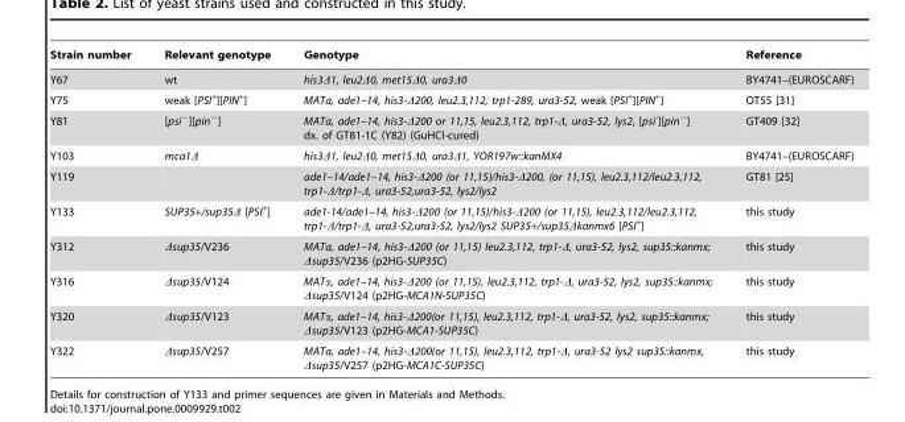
<table><thead><tr><td>Strain number</td><td>Relevant genotype</td><td>Genotype</td><td>Reference</td></tr></thead><tbody><tr><td>Y67</td><td>wt</td><td>his3Δ1, leu2Δ0, met15Δ0, ura3Δ0</td><td>BY4741–(EUROSCARF)</td></tr><tr><td>Y75</td><td>weak [PSI<sup>+</sup>][PIN<sup>+</sup>]</td><td>MATa, ade1–14, his3-Δ200, leu2.3,112, trp1-289, ura3-52, weak [PSI<sup>+</sup>][PIN<sup>+</sup>]</td><td>OT55 [31]</td></tr><tr><td>Y81</td><td>[psi<sup>−</sup>][pin<sup>−</sup>]</td><td>MATa, ade1–14, his3-Δ200 or 11,15, leu2.3,112, trp1-Δ, ura3-52, lys2, [psi<sup>-</sup>][pin<sup>−</sup>] dx. of GT81-1C (Y82) (GuHCl-cured)</td><td>GT409 [32]</td></tr><tr><td>Y103</td><td>mca1Δ</td><td>his3Δ1, leu2Δ0, met15Δ0, ura3Δ1, YOR197w::kanMX4</td><td>BY4741–(EUROSCARF)</td></tr><tr><td>Y119</td><td></td><td>ade1–14/ade1–14, his3-Δ200 (or 11,15)/his3-Δ200, (or 11,15), leu2.3,112/leu2.3,112, trp1-Δ/trp1-Δ, ura3-52,ura3-52, lys2/lys2</td><td>GT81 [25]</td></tr><tr><td>Y133</td><td>SUP35+/sup35Δ [PSI<sup>+</sup>]</td><td>ade1-14/ade1–14, his3-Δ200 (or 11,15)/his3-Δ200 (or 11,15), leu2.3,112/leu2.3,112, trp1-Δ/trp1-Δ, ura3-52,ura3-52, lys2/lys2 SUP35+/sup35Δkanmx6 [PSI<sup>+</sup>]</td><td>this study</td></tr><tr><td>Y312</td><td>Δsup35/V236</td><td>MATa, ade1–14, his3-Δ200 (or 11,15) leu2.3,112, trp1-Δ, ura3-52, lys2, sup35::kanmx; Δsup35/V236 (p2HG-SUP35C)</td><td>this study</td></tr><tr><td>Y316</td><td>Δsup35/V124</td><td>MATα, ade1–14, his3-Δ200 (or 11,15), leu2.3,112, trp1-Δ, ura3-52, lys2, sup35::kanmx; Δsup35/V124 (p2HG-MCA1N-SUP35C)</td><td>this study</td></tr><tr><td>Y320</td><td>Δsup35/V123</td><td>MATα, ade1–14, his3-Δ200(or 11,15), leu2.3,112, trp1-Δ, ura3-52, lys2, sup35::kanmx; Δsup35/V123 (p2HG-MCA1-SUP35C)</td><td>this study</td></tr><tr><td>Y322</td><td>Δsup35/V257</td><td>MATa, ade1–14, his3-Δ200(or 11,15), leu2.3,112, trp1-Δ, ura3-52 lys2 sup35::kanmx, Δsup35/V257 (p2HG-MCA1C-SUP35C)</td><td>this study</td></tr></tbody></table>